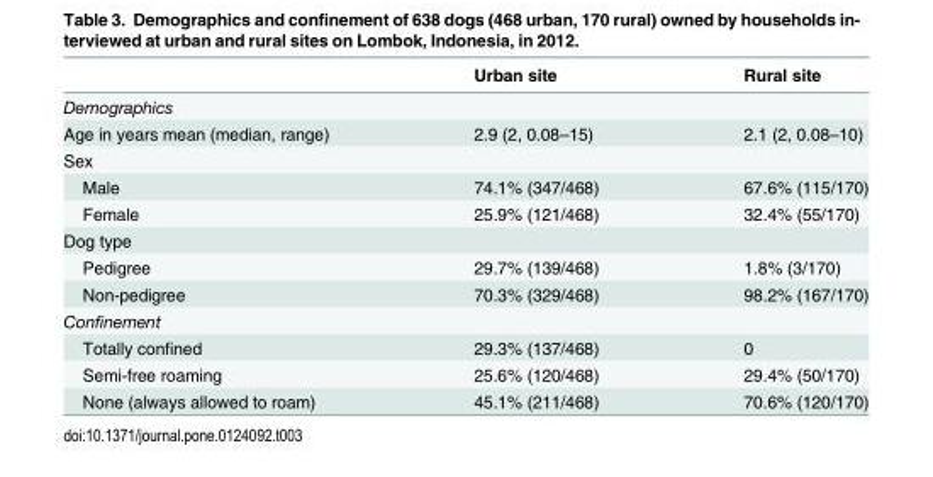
<table><thead><tr><td></td><td>Urban site</td><td>Rural site</td></tr></thead><tbody><tr><td colspan="3">Demographics</td></tr><tr><td>Age in years mean (median, range)</td><td>2.9 (2, 0.08–15)</td><td>2.1 (2, 0.08–10)</td></tr><tr><td colspan="3">Sex</td></tr><tr><td>Male</td><td>74.1% (347/468)</td><td>67.6% (115/170)</td></tr><tr><td>Female</td><td>25.9% (121/468)</td><td>32.4% (55/170)</td></tr><tr><td colspan="3">Dog type</td></tr><tr><td>Pedigree</td><td>29.7% (139/468)</td><td>1.8% (3/170)</td></tr><tr><td>Non-pedigree</td><td>70.3% (329/468)</td><td>98.2% (167/170)</td></tr><tr><td colspan="3">Confinement</td></tr><tr><td>Totally confined</td><td>29.3% (137/468)</td><td>0</td></tr><tr><td>Semi-free roaming</td><td>25.6% (120/468)</td><td>29.4% (50/170)</td></tr><tr><td>None (always allowed to roam)</td><td>45.1% (211/468)</td><td>70.6% (120/170)</td></tr></tbody></table>